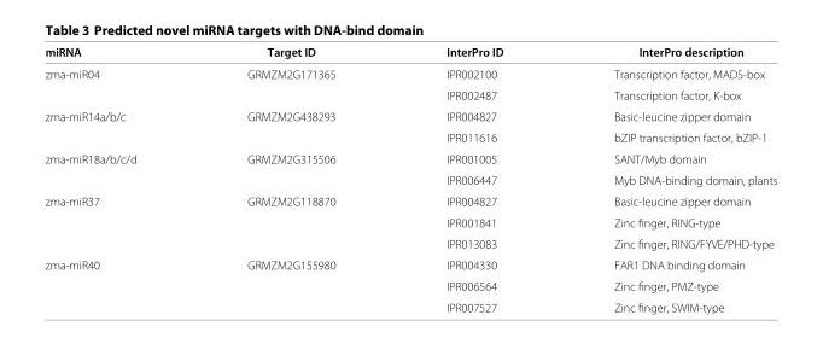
<table><thead><tr><td>miRNA</td><td>Target ID</td><td>InterPro ID</td><td>InterPro description</td></tr></thead><tbody><tr><td rowspan="2">zma-miR04</td><td>GRMZM2G171365</td><td>IPR002100</td><td>Transcription factor, MADS-box</td></tr><tr><td></td><td>IPR002487</td><td>Transcription factor, K-box</td></tr><tr><td rowspan="2">zma-miR14a/b/c</td><td>GRMZM2G438293</td><td>IPR004827</td><td>Basic-leucine zipper domain</td></tr><tr><td></td><td>IPR011616</td><td>bZIP transcription factor, bZIP-1</td></tr><tr><td rowspan="2">zma-miR18a/b/c/d</td><td>GRMZM2G315506</td><td>IPR001005</td><td>SANT/Myb domain</td></tr><tr><td></td><td>IPR006447</td><td>Myb DNA-binding domain, plants</td></tr><tr><td rowspan="3">zma-miR37</td><td>GRMZM2G118870</td><td>IPR004827</td><td>Basic-leucine zipper domain</td></tr><tr><td></td><td>IPR001841</td><td>Zinc finger, RING-type</td></tr><tr><td></td><td>IPR013083</td><td>Zinc finger, RING/FYVE/PHD-type</td></tr><tr><td rowspan="3">zma-miR40</td><td>GRMZM2G155980</td><td>IPR004330</td><td>FAR1 DNA binding domain</td></tr><tr><td></td><td>IPR006564</td><td>Zinc finger, PMZ-type</td></tr><tr><td></td><td>IPR007527</td><td>Zinc finger, SWIM-type</td></tr></tbody></table>